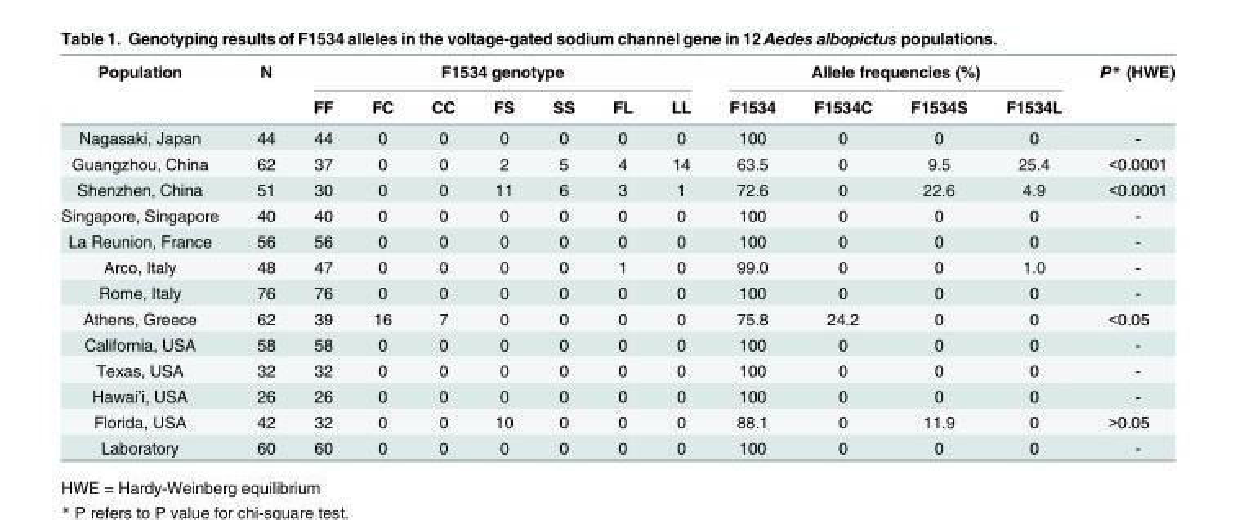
<table><thead><tr><td rowspan="2">Population</td><td rowspan="2">N</td><td colspan="7">F1534 genotype</td><td colspan="4">Allele frequencies (%)</td><td rowspan="2">P* (HWE)</td></tr><tr><td>FF</td><td>FC</td><td>CC</td><td>FS</td><td>SS</td><td>FL</td><td>LL</td><td>F1534</td><td>F1534C</td><td>F1534S</td><td>F1534L</td></tr></thead><tbody><tr><td>Nagasaki, Japan</td><td>44</td><td>44</td><td>0</td><td>0</td><td>0</td><td>0</td><td>0</td><td>0</td><td>100</td><td>0</td><td>0</td><td>0</td><td>-</td></tr><tr><td>Guangzhou, China</td><td>62</td><td>37</td><td>0</td><td>0</td><td>2</td><td>5</td><td>4</td><td>14</td><td>63.5</td><td>0</td><td>9.5</td><td>25.4</td><td>&lt;0.0001</td></tr><tr><td>Shenzhen, China</td><td>51</td><td>30</td><td>0</td><td>0</td><td>11</td><td>6</td><td>3</td><td>1</td><td>72.6</td><td>0</td><td>22.6</td><td>4.9</td><td>&lt;0.0001</td></tr><tr><td>Singapore, Singapore</td><td>40</td><td>40</td><td>0</td><td>0</td><td>0</td><td>0</td><td>0</td><td>0</td><td>100</td><td>0</td><td>0</td><td>0</td><td>-</td></tr><tr><td>La Reunion, France</td><td>56</td><td>56</td><td>0</td><td>0</td><td>0</td><td>0</td><td>0</td><td>0</td><td>100</td><td>0</td><td>0</td><td>0</td><td>-</td></tr><tr><td>Arco, Italy</td><td>48</td><td>47</td><td>0</td><td>0</td><td>0</td><td>0</td><td>1</td><td>0</td><td>99.0</td><td>0</td><td>0</td><td>1.0</td><td>-</td></tr><tr><td>Rome, Italy</td><td>76</td><td>76</td><td>0</td><td>0</td><td>0</td><td>0</td><td>0</td><td>0</td><td>100</td><td>0</td><td>0</td><td>0</td><td>-</td></tr><tr><td>Athens, Greece</td><td>62</td><td>39</td><td>16</td><td>7</td><td>0</td><td>0</td><td>0</td><td>0</td><td>75.8</td><td>24.2</td><td>0</td><td>0</td><td>&lt;0.05</td></tr><tr><td>California, USA</td><td>58</td><td>58</td><td>0</td><td>0</td><td>0</td><td>0</td><td>0</td><td>0</td><td>100</td><td>0</td><td>0</td><td>0</td><td>-</td></tr><tr><td>Texas, USA</td><td>32</td><td>32</td><td>0</td><td>0</td><td>0</td><td>0</td><td>0</td><td>0</td><td>100</td><td>0</td><td>0</td><td>0</td><td>-</td></tr><tr><td>Hawai’i, USA</td><td>26</td><td>26</td><td>0</td><td>0</td><td>0</td><td>0</td><td>0</td><td>0</td><td>100</td><td>0</td><td>0</td><td>0</td><td>-</td></tr><tr><td>Florida, USA</td><td>42</td><td>32</td><td>0</td><td>0</td><td>10</td><td>0</td><td>0</td><td>0</td><td>88.1</td><td>0</td><td>11.9</td><td>0</td><td>&gt;0.05</td></tr><tr><td>Laboratory</td><td>60</td><td>60</td><td>0</td><td>0</td><td>0</td><td>0</td><td>0</td><td>0</td><td>100</td><td>0</td><td>0</td><td>0</td><td>-</td></tr></tbody></table>